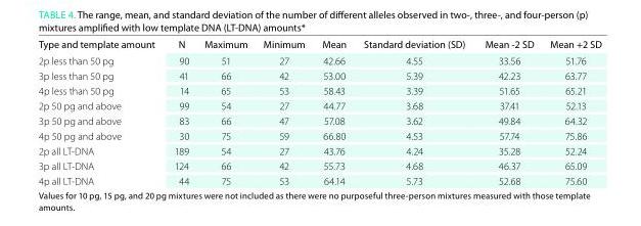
<table><thead><tr><td>Type and template amount</td><td>N</td><td>Maximum</td><td>Minimum</td><td>Mean</td><td>standard deviation (sD)</td><td>Mean -2 sD</td><td>Mean +2 sD</td></tr></thead><tbody><tr><td>2p less than 50 pg</td><td>90</td><td>51</td><td>27</td><td>42.66</td><td>4.55</td><td>33.56</td><td>51.76</td></tr><tr><td>3p less than 50 pg</td><td>41</td><td>66</td><td>42</td><td>53.00</td><td>5.39</td><td>42.23</td><td>63.77</td></tr><tr><td>4p less than 50 pg</td><td>14</td><td>65</td><td>53</td><td>58.43</td><td>3.39</td><td>51.65</td><td>65.21</td></tr><tr><td>2p 50 pg and above</td><td>99</td><td>54</td><td>27</td><td>44.77</td><td>3.68</td><td>37.41</td><td>52.13</td></tr><tr><td>3p 50 pg and above</td><td>83</td><td>66</td><td>47</td><td>57.08</td><td>3.62</td><td>49.84</td><td>64.32</td></tr><tr><td>4p 50 pg and above</td><td>30</td><td>75</td><td>59</td><td>66.80</td><td>4.53</td><td>57.74</td><td>75.86</td></tr><tr><td>2p all LT-DNA</td><td>189</td><td>54</td><td>27</td><td>43.76</td><td>4.24</td><td>35.28</td><td>52.24</td></tr><tr><td>3p all LT-DNA</td><td>124</td><td>66</td><td>42</td><td>55.73</td><td>4.68</td><td>46.37</td><td>65.09</td></tr><tr><td>4p all LT-DNA</td><td>44</td><td>75</td><td>53</td><td>64.14</td><td>5.73</td><td>52.68</td><td>75.60</td></tr></tbody></table>